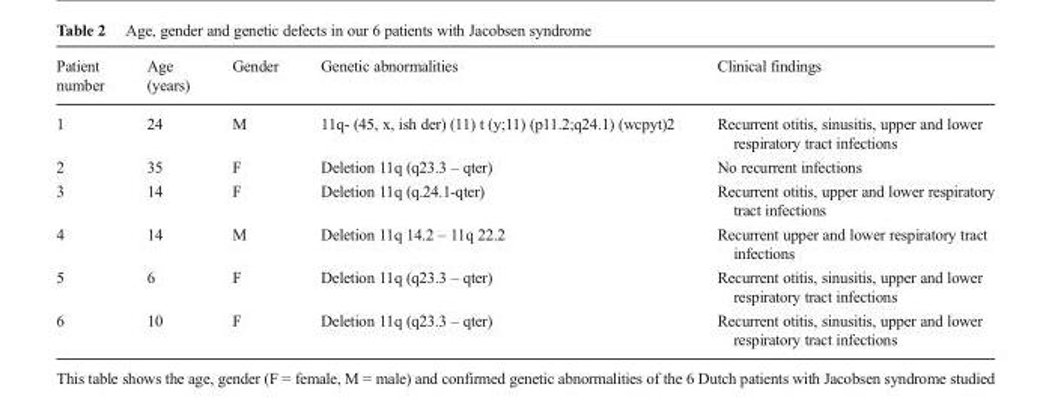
<table><thead><tr><td>Patient number</td><td>Age (years)</td><td>Gender</td><td>Genetic abnormalities</td><td>Clinical findings</td></tr></thead><tbody><tr><td>1</td><td>24</td><td>M</td><td>11q- (45, x, ish der) (11) t (y;11) (p11.2;q24.1) (wcpyt)2</td><td>Recurrent otitis, sinusitis, upper and lower respiratory tract infections</td></tr><tr><td>2</td><td>35</td><td>F</td><td>Deletion 11q (q23.3 – qter)</td><td>No recurrent infections</td></tr><tr><td>3</td><td>14</td><td>F</td><td>Deletion 11q (q.24.1-qter)</td><td>Recurrent otitis, upper and lower respiratory tract infections</td></tr><tr><td>4</td><td>14</td><td>M</td><td>Deletion 11q 14.2 – 11q 22.2</td><td>Recurrent upper and lower respiratory tract infections</td></tr><tr><td>5</td><td>6</td><td>F</td><td>Deletion 11q (q23.3 – qter)</td><td>Recurrent otitis, sinusitis, upper and lower respiratory tract infections</td></tr><tr><td>6</td><td>10</td><td>F</td><td>Deletion 11q (q23.3 – qter)</td><td>Recurrent otitis, sinusitis, upper and lower respiratory tract infections</td></tr></tbody></table>